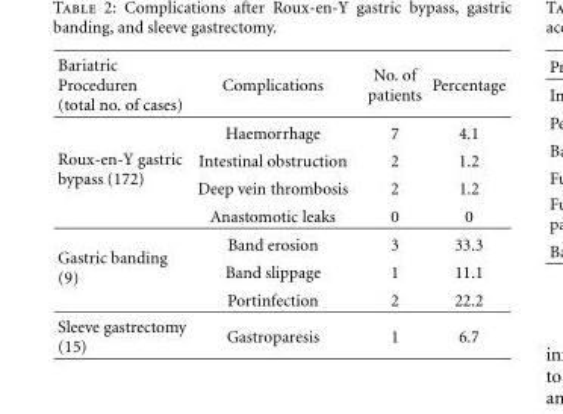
<table><thead><tr><td>Bariatric Proceduren (total no. of cases)</td><td>Complications</td><td>No. of patients</td><td>Percentage</td></tr></thead><tbody><tr><td rowspan="4">Roux-en-Y gastric bypass (172)</td><td>Haemorrhage</td><td>7</td><td>4.1</td></tr><tr><td>Intestinal obstruction</td><td>2</td><td>1.2</td></tr><tr><td>Deep vein thrombosis</td><td>2</td><td>1.2</td></tr><tr><td>Anastomotic leaks</td><td>0</td><td>0</td></tr><tr><td rowspan="3">Gastric banding (9)</td><td>Band erosion</td><td>3</td><td>33.3</td></tr><tr><td>Band slippage</td><td>1</td><td>11.1</td></tr><tr><td>Portinfection</td><td>2</td><td>22.2</td></tr><tr><td>Sleeve gastrectomy (15)</td><td>Gastroparesis</td><td>1</td><td>6.7</td></tr></tbody></table>